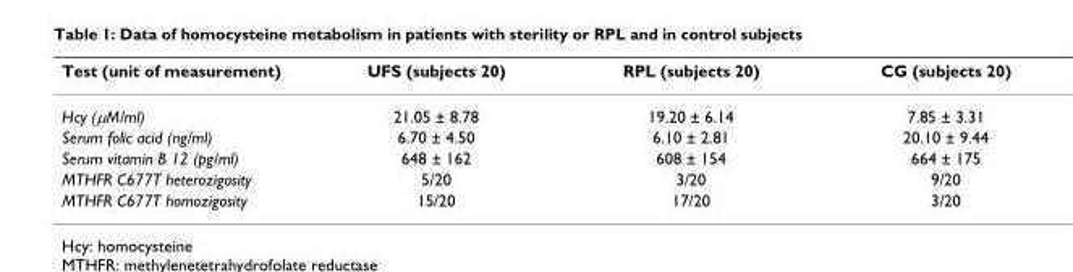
<table><thead><tr><td>Test (unit of measurement)</td><td>UFS (subjects 20)</td><td>RPL (subjects 20)</td><td>CG (subjects 20)</td></tr></thead><tbody><tr><td>Hcy (μM/ml)</td><td>21.05 ± 8.78</td><td>19.20 ± 6.14</td><td>7.85 ± 3.31</td></tr><tr><td>Serum folic acid (ng/ml)</td><td>6.70 ± 4.50</td><td>6.10 ± 2.81</td><td>20.10 ± 9.44</td></tr><tr><td>Serum vitamin B 12 (pg/ml)</td><td>648 ± 162</td><td>608 ± 154</td><td>664 ± 175</td></tr><tr><td>MTHFR C677T heterozigosity</td><td>5/20</td><td>3/20</td><td>9/20</td></tr><tr><td>MTHFR C677T homozigosity</td><td>15/20</td><td>17/20</td><td>3/20</td></tr></tbody></table>